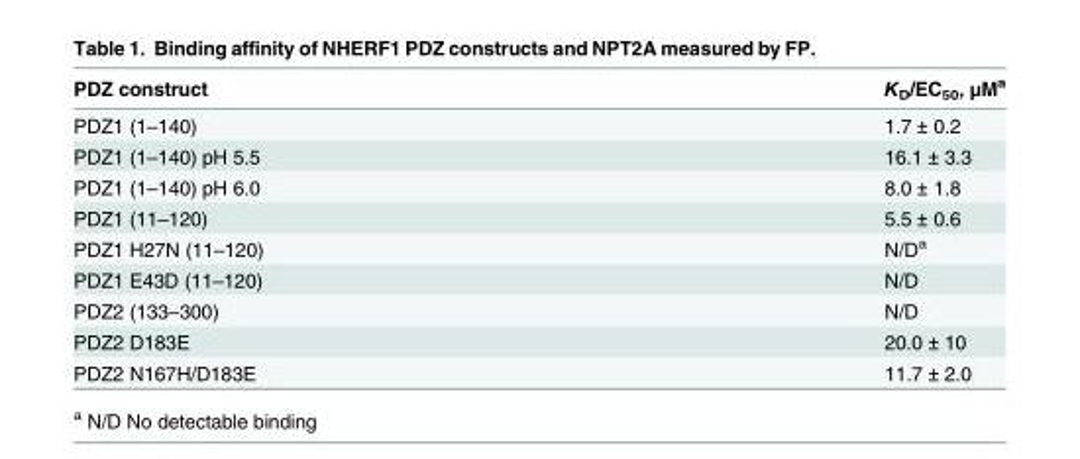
<table><thead><tr><td>PDZ construct</td><td>K<sub>D</sub>/EC<sub>50</sub>, μM<sup>a</sup></td></tr></thead><tbody><tr><td>PDZ1 (1–140)</td><td>1.7 ± 0.2</td></tr><tr><td>PDZ1 (1–140) pH 5.5</td><td>16.1 ± 3.3</td></tr><tr><td>PDZ1 (1–140) pH 6.0</td><td>8.0 ± 1.8</td></tr><tr><td>PDZ1 (11–120)</td><td>5.5 ± 0.6</td></tr><tr><td>PDZ1 H27N (11–120)</td><td>N/D<sup>a</sup></td></tr><tr><td>PDZ1 E43D (11–120)</td><td>N/D</td></tr><tr><td>PDZ2 (133–300)</td><td>N/D</td></tr><tr><td>PDZ2 D183E</td><td>20.0 ± 10</td></tr><tr><td>PDZ2 N167H/D183E</td><td>11.7 ± 2.0</td></tr></tbody></table>